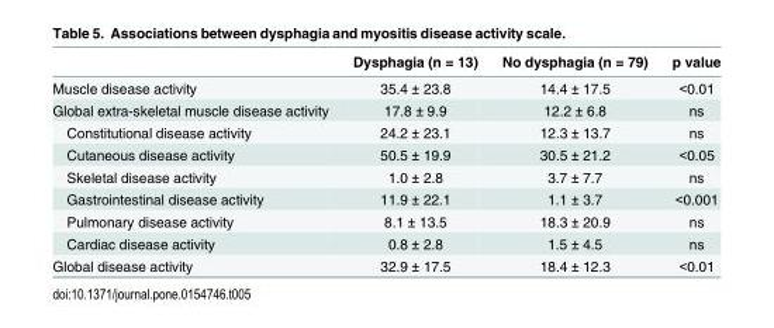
<table><thead><tr><td></td><td>Dysphagia (n = 13)</td><td>No dysphagia (n = 79)</td><td>p value</td></tr></thead><tbody><tr><td>Muscle disease activity</td><td>35.4 ± 23.8</td><td>14.4 ± 17.5</td><td>&lt;0.01</td></tr><tr><td>Global extra-skeletal muscle disease activity</td><td>17.8 ± 9.9</td><td>12.2 ± 6.8</td><td>ns</td></tr><tr><td>Constitutional disease activity</td><td>24.2 ± 23.1</td><td>12.3 ± 13.7</td><td>ns</td></tr><tr><td>Cutaneous disease activity</td><td>50.5 ± 19.9</td><td>30.5 ± 21.2</td><td>&lt;0.05</td></tr><tr><td>Skeletal disease activity</td><td>1.0 ± 2.8</td><td>3.7 ± 7.7</td><td>ns</td></tr><tr><td>Gastrointestinal disease activity</td><td>11.9 ± 22.1</td><td>1.1 ± 3.7</td><td>&lt;0.001</td></tr><tr><td>Pulmonary disease activity</td><td>8.1 ± 13.5</td><td>18.3 ± 20.9</td><td>ns</td></tr><tr><td>Cardiac disease activity</td><td>0.8 ± 2.8</td><td>1.5 ± 4.5</td><td>ns</td></tr><tr><td>Global disease activity</td><td>32.9 ± 17.5</td><td>18.4 ± 12.3</td><td>&lt;0.01</td></tr></tbody></table>